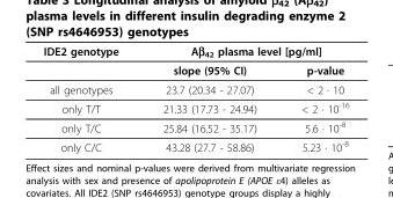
<table><thead><tr><td rowspan="2">IDE2 genotype</td><td colspan="2">Aβ<sub>42</sub> plasma level [pg/ml]</td></tr><tr><td>slope (95% CI)</td><td>p-value</td></tr></thead><tbody><tr><td>all genotypes</td><td>23.7 (20.34 - 27.07)</td><td>&lt; 2 ∙ 10</td></tr><tr><td>only T/T</td><td>21.33 (17.73 - 24.94)</td><td>&lt; 2 ∙ 10<sup>-16</sup></td></tr><tr><td>only T/C</td><td>25.84 (16.52 - 35.17)</td><td>5.6 ∙ 10<sup>-8</sup></td></tr><tr><td>only C/C</td><td>43.28 (27.7 - 58.86)</td><td>5.23 ∙ 10<sup>-8</sup></td></tr></tbody></table>